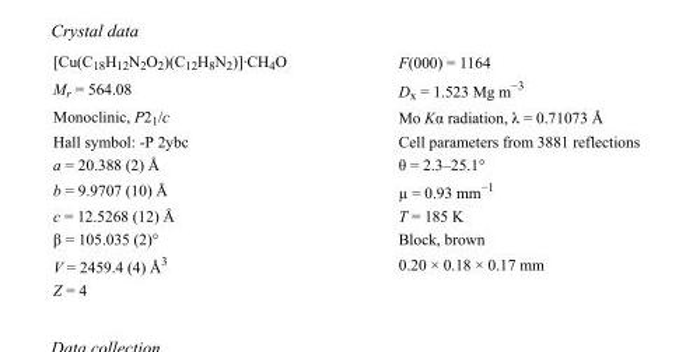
<table><tbody><tr><td>[Cu(C<sub>18</sub>H<sub>12</sub>N<sub>2</sub>O<sub>2</sub>)(C<sub>12</sub>H<sub>8</sub>N<sub>2</sub>)]·CH<sub>4</sub>O</td><td>F(000) = 1164</td></tr><tr><td>M<sub>r</sub> = 564.08</td><td>D<sub>x</sub> = 1.523 Mg m<sup>−3</sup></td></tr><tr><td>Monoclinic, P2<sub>1</sub>/c</td><td>Mo Kα radiation, λ = 0.71073 Å</td></tr><tr><td>Hall symbol: -P 2ybc</td><td>Cell parameters from 3881 reflections</td></tr><tr><td>a = 20.388 (2) Å</td><td>θ = 2.3–25.1°</td></tr><tr><td>b = 9.9707 (10) Å</td><td>µ = 0.93 mm<sup>−1</sup></td></tr><tr><td>c = 12.5268 (12) Å</td><td>T = 185 K</td></tr><tr><td>β = 105.035 (2)°</td><td>Block, brown</td></tr><tr><td>V = 2459.4 (4) Å<sup>3</sup></td><td>0.20 × 0.18 × 0.17 mm</td></tr><tr><td>Z = 4</td><td></td></tr></tbody></table>